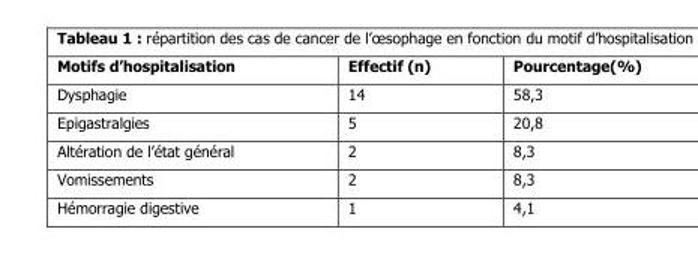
<table><thead><tr><td>Motifs d’hospitalisation</td><td>Effectif (n)</td><td>Pourcentage(%)</td></tr></thead><tbody><tr><td>Dysphagie</td><td>14</td><td>58,3</td></tr><tr><td>Epigastralgies</td><td>5</td><td>20,8</td></tr><tr><td>Altération de l’état général</td><td>2</td><td>8,3</td></tr><tr><td>Vomissements</td><td>2</td><td>8,3</td></tr><tr><td>Hémorragie digestive</td><td>1</td><td>4,1</td></tr></tbody></table>